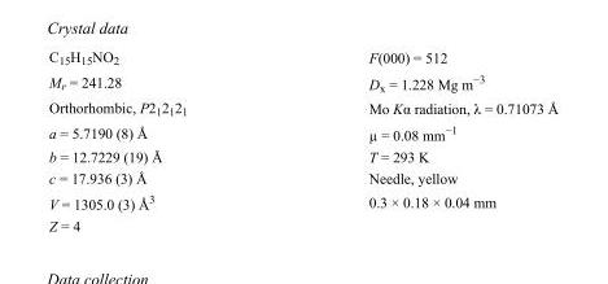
<table><tbody><tr><td>C<sub>15</sub>H<sub>15</sub>NO<sub>2</sub></td><td>F(000) = 512</td></tr><tr><td>M<sub>r</sub> = 241.28</td><td>D<sub>x</sub> = 1.228 Mg m<sup>−3</sup></td></tr><tr><td>Orthorhombic, P2<sub>1</sub>2<sub>1</sub>2<sub>1</sub></td><td>Mo Kα radiation, λ = 0.71073 Å</td></tr><tr><td>a = 5.7190 (8) Å</td><td>µ = 0.08 mm<sup>−1</sup></td></tr><tr><td>b = 12.7229 (19) Å</td><td>T = 293 K</td></tr><tr><td>c = 17.936 (3) Å</td><td>Needle, yellow</td></tr><tr><td>V = 1305.0 (3) Å<sup>3</sup></td><td>0.3 × 0.18 × 0.04 mm</td></tr><tr><td>Z = 4</td><td></td></tr></tbody></table>